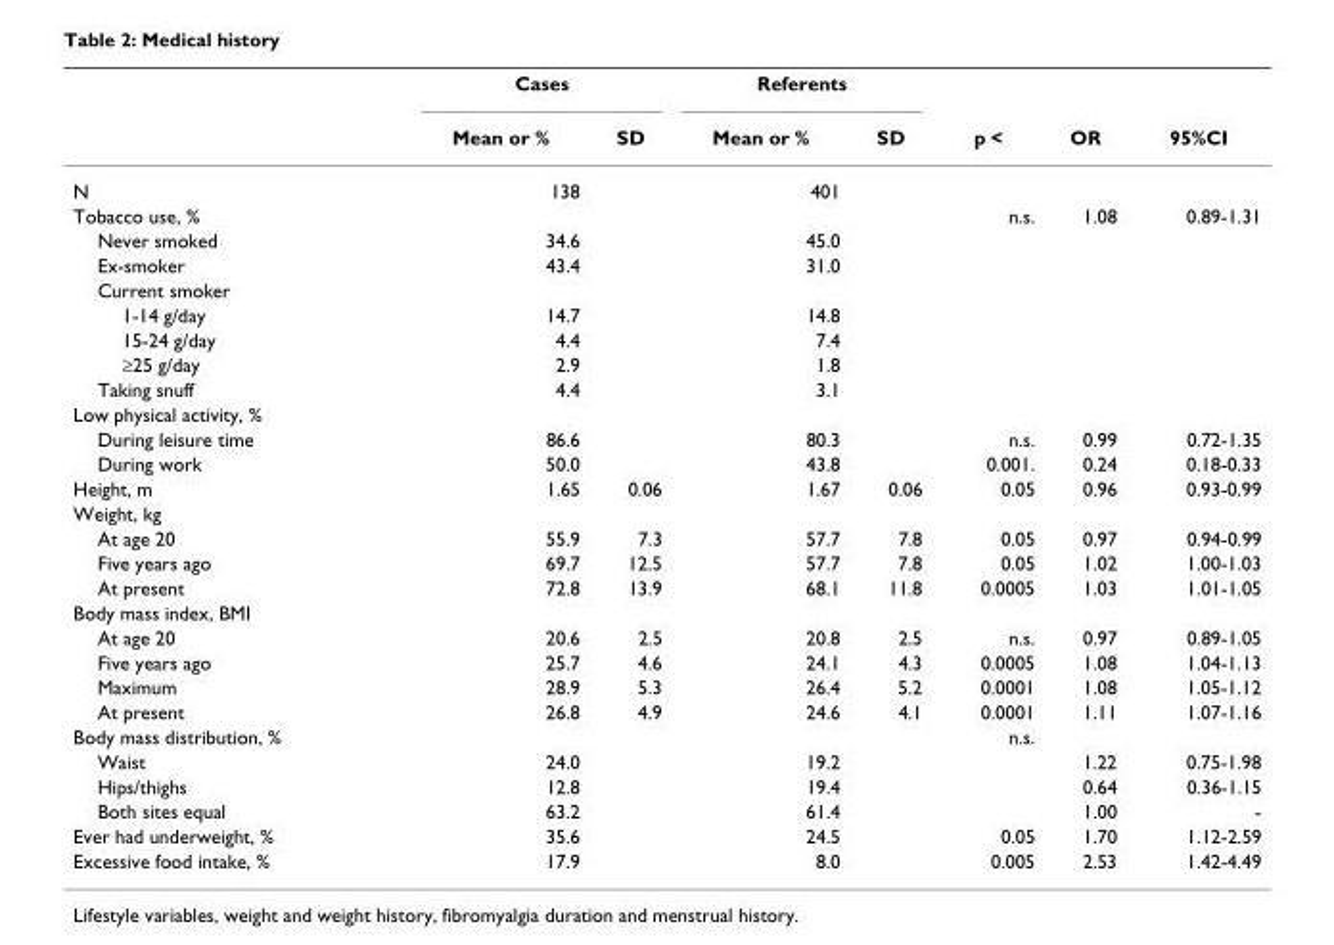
<table><thead><tr><td rowspan="2"></td><td colspan="2">Cases</td><td colspan="2">Referents</td><td rowspan="2">p &lt;</td><td rowspan="2">OR</td><td rowspan="2">95%CI</td></tr><tr><td>Mean or %</td><td>SD</td><td>Mean or %</td><td>SD</td></tr></thead><tbody><tr><td>N</td><td>138</td><td></td><td>401</td><td></td><td></td><td></td><td></td></tr><tr><td>Tobacco use, %</td><td></td><td></td><td></td><td></td><td>n.s.</td><td>1.08</td><td>0.89-1.31</td></tr><tr><td>Never smoked</td><td>34.6</td><td></td><td>45.0</td><td></td><td></td><td></td><td></td></tr><tr><td>Ex-smoker</td><td>43.4</td><td></td><td>31.0</td><td></td><td></td><td></td><td></td></tr><tr><td colspan="8">Current smoker</td></tr><tr><td>1-14 g/day</td><td>14.7</td><td></td><td>14.8</td><td></td><td></td><td></td><td></td></tr><tr><td>15-24 g/day</td><td>4.4</td><td></td><td>7.4</td><td></td><td></td><td></td><td></td></tr><tr><td>≥25 g/day</td><td>2.9</td><td></td><td>1.8</td><td></td><td></td><td></td><td></td></tr><tr><td>Taking snuff</td><td>4.4</td><td></td><td>3.1</td><td></td><td></td><td></td><td></td></tr><tr><td colspan="8">Low physical activity, %</td></tr><tr><td>During leisure time</td><td>86.6</td><td></td><td>80.3</td><td></td><td>n.s.</td><td>0.99</td><td>0.72-1.35</td></tr><tr><td>During work</td><td>50.0</td><td></td><td>43.8</td><td></td><td>0.001.</td><td>0.24</td><td>0.18-0.33</td></tr><tr><td>Height, m</td><td>1.65</td><td>0.06</td><td>1.67</td><td>0.06</td><td>0.05</td><td>0.96</td><td>0.93-0.99</td></tr><tr><td colspan="8">Weight, kg</td></tr><tr><td>At age 20</td><td>55.9</td><td>7.3</td><td>57.7</td><td>7.8</td><td>0.05</td><td>0.97</td><td>0.94-0.99</td></tr><tr><td>Five years ago</td><td>69.7</td><td>12.5</td><td>57.7</td><td>7.8</td><td>0.05</td><td>1.02</td><td>1.00-1.03</td></tr><tr><td>At present</td><td>72.8</td><td>13.9</td><td>68.1</td><td>11.8</td><td>0.0005</td><td>1.03</td><td>1.01-1.05</td></tr><tr><td colspan="8">Body mass index, BMI</td></tr><tr><td>At age 20</td><td>20.6</td><td>2.5</td><td>20.8</td><td>2.5</td><td>n.s.</td><td>0.97</td><td>0.89-1.05</td></tr><tr><td>Five years ago</td><td>25.7</td><td>4.6</td><td>24.1</td><td>4.3</td><td>0.0005</td><td>1.08</td><td>1.04-1.13</td></tr><tr><td>Maximum</td><td>28.9</td><td>5.3</td><td>26.4</td><td>5.2</td><td>0.0001</td><td>1.08</td><td>1.05-1.12</td></tr><tr><td>At present</td><td>26.8</td><td>4.9</td><td>24.6</td><td>4.1</td><td>0.0001</td><td>1.11</td><td>1.07-1.16</td></tr><tr><td>Body mass distribution, %</td><td></td><td></td><td></td><td></td><td>n.s.</td><td></td><td></td></tr><tr><td>Waist</td><td>24.0</td><td></td><td>19.2</td><td></td><td></td><td>1.22</td><td>0.75-1.98</td></tr><tr><td>Hips/thighs</td><td>12.8</td><td></td><td>19.4</td><td></td><td></td><td>0.64</td><td>0.36-1.15</td></tr><tr><td>Both sites equal</td><td>63.2</td><td></td><td>61.4</td><td></td><td></td><td>1.00</td><td>-</td></tr><tr><td>Ever had underweight, %</td><td>35.6</td><td></td><td>24.5</td><td></td><td>0.05</td><td>1.70</td><td>1.12-2.59</td></tr><tr><td>Excessive food intake, %</td><td>17.9</td><td></td><td>8.0</td><td></td><td>0.005</td><td>2.53</td><td>1.42-4.49</td></tr></tbody></table>